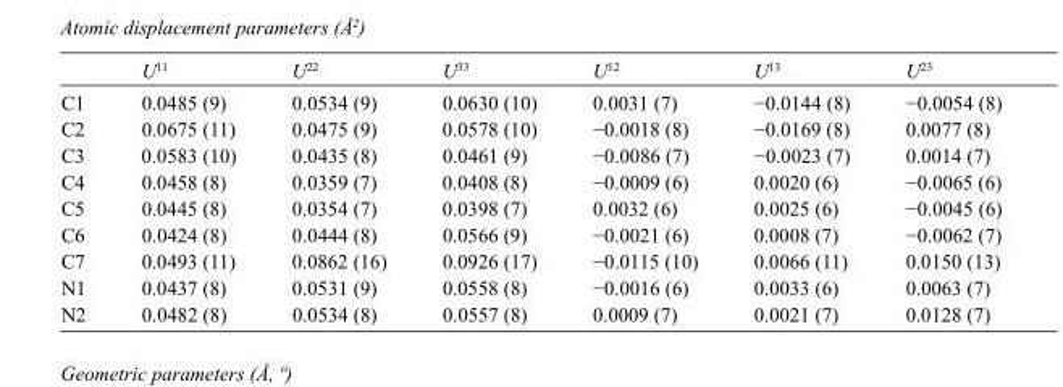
<table><thead><tr><td></td><td>U<sup>11</sup></td><td>U<sup>22</sup></td><td>U<sup>33</sup></td><td>U<sup>12</sup></td><td>U<sup>13</sup></td><td>U<sup>23</sup></td></tr></thead><tbody><tr><td>C1</td><td>0.0485 (9)</td><td>0.0534 (9)</td><td>0.0630 (10)</td><td>0.0031 (7)</td><td>−0.0144 (8)</td><td>−0.0054 (8)</td></tr><tr><td>C2</td><td>0.0675 (11)</td><td>0.0475 (9)</td><td>0.0578 (10)</td><td>−0.0018 (8)</td><td>−0.0169 (8)</td><td>0.0077 (8)</td></tr><tr><td>C3</td><td>0.0583 (10)</td><td>0.0435 (8)</td><td>0.0461 (9)</td><td>−0.0086 (7)</td><td>−0.0023 (7)</td><td>0.0014 (7)</td></tr><tr><td>C4</td><td>0.0458 (8)</td><td>0.0359 (7)</td><td>0.0408 (8)</td><td>−0.0009 (6)</td><td>0.0020 (6)</td><td>−0.0065 (6)</td></tr><tr><td>C5</td><td>0.0445 (8)</td><td>0.0354 (7)</td><td>0.0398 (7)</td><td>0.0032 (6)</td><td>0.0025 (6)</td><td>−0.0045 (6)</td></tr><tr><td>C6</td><td>0.0424 (8)</td><td>0.0444 (8)</td><td>0.0566 (9)</td><td>−0.0021 (6)</td><td>0.0008 (7)</td><td>−0.0062 (7)</td></tr><tr><td>C7</td><td>0.0493 (11)</td><td>0.0862 (16)</td><td>0.0926 (17)</td><td>−0.0115 (10)</td><td>0.0066 (11)</td><td>0.0150 (13)</td></tr><tr><td>N1</td><td>0.0437 (8)</td><td>0.0531 (9)</td><td>0.0558 (8)</td><td>−0.0016 (6)</td><td>0.0033 (6)</td><td>0.0063 (7)</td></tr><tr><td>N2</td><td>0.0482 (8)</td><td>0.0534 (8)</td><td>0.0557 (8)</td><td>0.0009 (7)</td><td>0.0021 (7)</td><td>0.0128 (7)</td></tr></tbody></table>